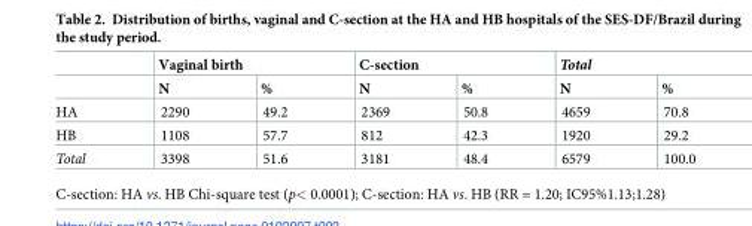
<table><thead><tr><td rowspan="2"></td><td colspan="2">Vaginal birth</td><td colspan="2">C-section</td><td colspan="2">Total</td></tr><tr><td>N</td><td>%</td><td>N</td><td>%</td><td>N</td><td>%</td></tr></thead><tbody><tr><td>HA</td><td>2290</td><td>49.2</td><td>2369</td><td>50.8</td><td>4659</td><td>70.8</td></tr><tr><td>HB</td><td>1108</td><td>57.7</td><td>812</td><td>42.3</td><td>1920</td><td>29.2</td></tr><tr><td>Total</td><td>3398</td><td>51.6</td><td>3181</td><td>48.4</td><td>6579</td><td>100.0</td></tr></tbody></table>